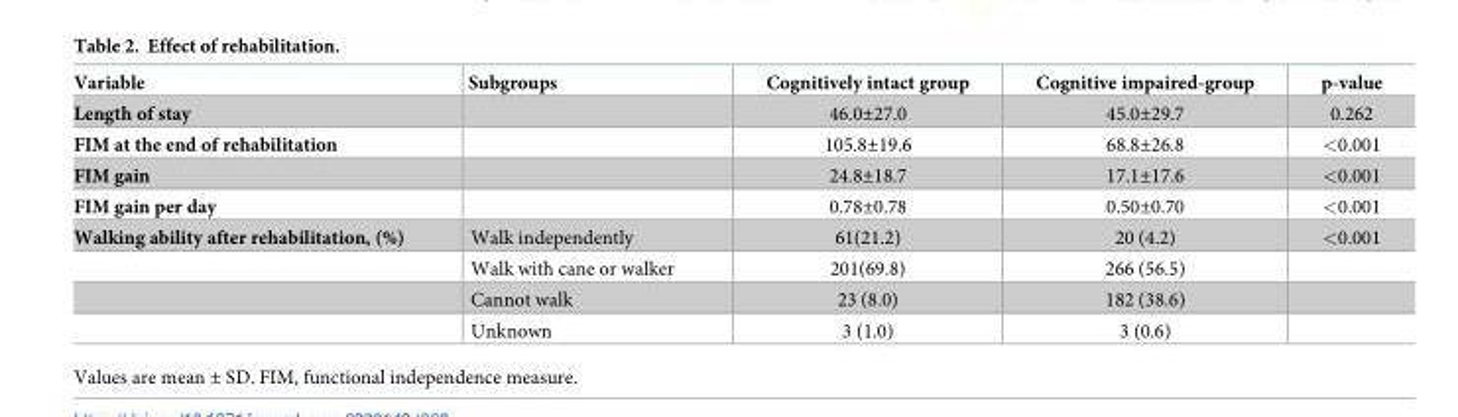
<table><thead><tr><td>Variable</td><td>Subgroups</td><td>Cognitively intact group</td><td>Cognitive impaired-group</td><td>p-value</td></tr></thead><tbody><tr><td>Length of stay</td><td></td><td>46.0±27.0</td><td>45.0±29.7</td><td>0.262</td></tr><tr><td>FIM at the end of rehabilitation</td><td></td><td>105.8±19.6</td><td>68.8±26.8</td><td>&lt;0.001</td></tr><tr><td>FIM gain</td><td></td><td>24.8±18.7</td><td>17.1±17.6</td><td>&lt;0.001</td></tr><tr><td>FIM gain per day</td><td></td><td>0.78±0.78</td><td>0.50±0.70</td><td>&lt;0.001</td></tr><tr><td rowspan="4">Walking ability after rehabilitation, (%)</td><td>Walk independently</td><td>61(21.2)</td><td>20 (4.2)</td><td>&lt;0.001</td></tr><tr><td>Walk with cane or walker</td><td>201(69.8)</td><td>266 (56.5)</td><td></td></tr><tr><td>Cannot walk</td><td>23 (8.0)</td><td>182 (38.6)</td><td></td></tr><tr><td>Unknown</td><td>3 (1.0)</td><td>3 (0.6)</td><td></td></tr></tbody></table>